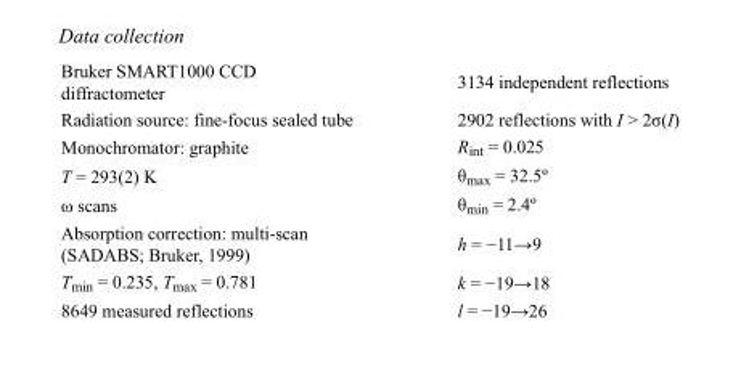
<table><tbody><tr><td>Bruker SMART1000 CCD diffractometer</td><td>3134 independent reflections</td></tr><tr><td>Radiation source: fine-focus sealed tube</td><td>2902 reflections with I &gt; 2σ(I)</td></tr><tr><td>Monochromator: graphite</td><td>R<sub>int</sub> = 0.025</td></tr><tr><td>T = 293(2) K</td><td>θ<sub>max</sub> = 32.5º</td></tr><tr><td>ω scans</td><td>θ<sub>min</sub> = 2.4º</td></tr><tr><td>Absorption correction: multi-scan (SADABS; Bruker, 1999)</td><td>h = −11→9</td></tr><tr><td>T<sub>min</sub> = 0.235, T<sub>max</sub> = 0.781</td><td>k = −19→18</td></tr><tr><td>8649 measured reflections</td><td>l = −19→26</td></tr></tbody></table>